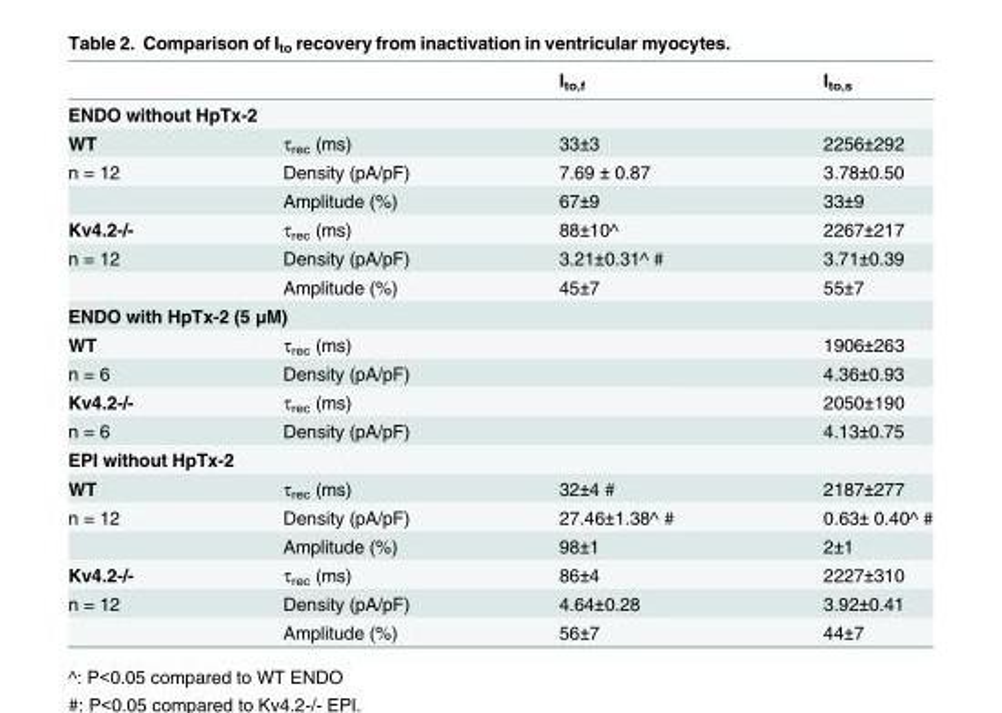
<table><thead><tr><td></td><td></td><td>I<sub>to,f</sub></td><td>I<sub>to,s</sub></td></tr></thead><tbody><tr><td colspan="4">ENDO without HpTx-2</td></tr><tr><td>WT</td><td>τ<sub>rec</sub> (ms)</td><td>33±3</td><td>2256±292</td></tr><tr><td rowspan="2">n = 12</td><td>Density (pA/pF)</td><td>7.69 ± 0.87</td><td>3.78±0.50</td></tr><tr><td>Amplitude (%)</td><td>67±9</td><td>33±9</td></tr><tr><td>Kv4.2-/-</td><td>τ<sub>rec</sub> (ms)</td><td>88±10^</td><td>2267±217</td></tr><tr><td rowspan="2">n = 12</td><td>Density (pA/pF)</td><td>3.21±0.31^ #</td><td>3.71±0.39</td></tr><tr><td>Amplitude (%)</td><td>45±7</td><td>55±7</td></tr><tr><td colspan="4">ENDO with HpTx-2 (5 μM)</td></tr><tr><td>WT</td><td>τ<sub>rec</sub> (ms)</td><td></td><td>1906±263</td></tr><tr><td>n = 6</td><td>Density (pA/pF)</td><td></td><td>4.36±0.93</td></tr><tr><td>Kv4.2-/-</td><td>τ<sub>rec</sub> (ms)</td><td></td><td>2050±190</td></tr><tr><td>n = 6</td><td>Density (pA/pF)</td><td></td><td>4.13±0.75</td></tr><tr><td colspan="4">EPI without HpTx-2</td></tr><tr><td>WT</td><td>τ<sub>rec</sub> (ms)</td><td>32±4 #</td><td>2187±277</td></tr><tr><td rowspan="2">n = 12</td><td>Density (pA/pF)</td><td>27.46±1.38^ #</td><td>0.63± 0.40^ #</td></tr><tr><td>Amplitude (%)</td><td>98±1</td><td>2±1</td></tr><tr><td>Kv4.2-/-</td><td>τ<sub>rec</sub> (ms)</td><td>86±4</td><td>2227±310</td></tr><tr><td rowspan="2">n = 12</td><td>Density (pA/pF)</td><td>4.64±0.28</td><td>3.92±0.41</td></tr><tr><td>Amplitude (%)</td><td>56±7</td><td>44±7</td></tr></tbody></table>